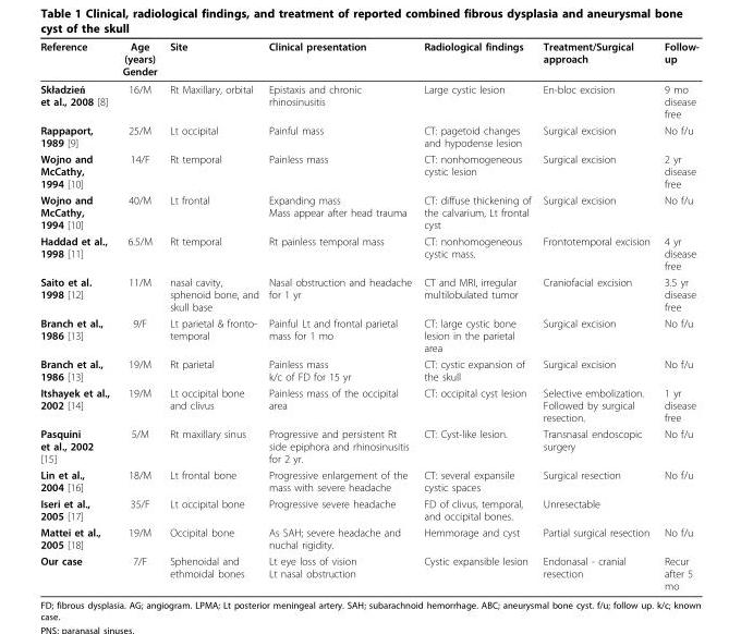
<table><thead><tr><td>Reference</td><td>Age (years) Gender</td><td>Site</td><td>Clinical presentation</td><td>Radiological findings</td><td>Treatment/Surgical approach</td><td>Follow- up</td></tr></thead><tbody><tr><td>Składzień et al., 2008 [8]</td><td>16/M</td><td>Rt Maxillary, orbital</td><td>Epistaxis and chronic rhinosinusitis</td><td>Large cystic lesion</td><td>En-bloc excision</td><td>9 mo disease free</td></tr><tr><td>Rappaport, 1989 [9]</td><td>25/M</td><td>Lt occipital</td><td>Painful mass</td><td>CT: pagetoid changes and hypodense lesion</td><td>Surgical excision</td><td>No f/u</td></tr><tr><td>Wojno and McCathy, 1994 [10]</td><td>14/F</td><td>Rt temporal</td><td>Painless mass</td><td>CT: nonhomogeneous cystic lesion</td><td>Surgical excision</td><td>2 yr disease free</td></tr><tr><td>Wojno and McCathy, 1994 [10]</td><td>40/M</td><td>Lt frontal</td><td>Expanding mass Mass appear after head trauma</td><td>CT: diffuse thickening of the calvarium, Lt frontal cyst</td><td>Surgical excision</td><td>No f/u</td></tr><tr><td>Haddad et al., 1998 [11]</td><td>6.5/M</td><td>Rt temporal</td><td>Rt painless temporal mass</td><td>CT: nonhomogeneous cystic mass.</td><td>Frontotemporal excision</td><td>4 yr disease free</td></tr><tr><td>Saito et al. 1998 [12]</td><td>11/M</td><td>nasal cavity, sphenoid bone, and skull base</td><td>Nasal obstruction and headache for 1 yr</td><td>CT and MRI, irregular multilobulated tumor</td><td>Craniofacial excision</td><td>3.5 yr disease free</td></tr><tr><td>Branch et al., 1986 [13]</td><td>9/F</td><td>Lt parietal &amp; fronto- temporal</td><td>Painful Lt and frontal parietal mass for 1 mo</td><td>CT: large cystic bone lesion in the parietal area</td><td>Surgical excision</td><td>No f/u</td></tr><tr><td>Branch et al., 1986 [13]</td><td>19/M</td><td>Rt parietal</td><td>Painless mass k/c of FD for 15 yr</td><td>CT: cystic expansion of the skull</td><td>Surgical excision</td><td>No f/u</td></tr><tr><td>Itshayek et al., 2002 [14]</td><td>19/M</td><td>Lt occipital bone and clivus</td><td>Painless mass of the occipital area</td><td>CT: occipital cyst lesion</td><td>Selective embolization. Followed by surgical resection.</td><td>1 yr disease free</td></tr><tr><td>Pasquini et al., 2002 [15]</td><td>5/M</td><td>Rt maxillary sinus</td><td>Progressive and persistent Rt side epiphora and rhinosinusitis for 2 yr.</td><td>CT: Cyst-like lesion.</td><td>Transnasal endoscopic surgery</td><td>No f/u</td></tr><tr><td>Lin et al., 2004 [16]</td><td>18/M</td><td>Lt frontal bone</td><td>Progressive enlargement of the mass with severe headache</td><td>CT: several expansile cystic spaces</td><td>Surgical resection</td><td>No f/u</td></tr><tr><td>Iseri et al., 2005 [17]</td><td>35/F</td><td>Lt occipital bone</td><td>Progressive severe headache</td><td>FD of clivus, temporal, and occipital bones.</td><td>Unresectable</td><td></td></tr><tr><td>Mattei et al., 2005 [18]</td><td>19/M</td><td>Occipital bone</td><td>As SAH; severe headache and nuchal rigidity.</td><td>Hemmorage and cyst</td><td>Partial surgical resection</td><td>No f/u</td></tr><tr><td>Our case</td><td>7/F</td><td>Sphenoidal and ethmoidal bones</td><td>Lt eye loss of vision Lt nasal obstruction</td><td>Cystic expansible lesion</td><td>Endonasal - cranial resection</td><td>Recur after 5 mo</td></tr></tbody></table>